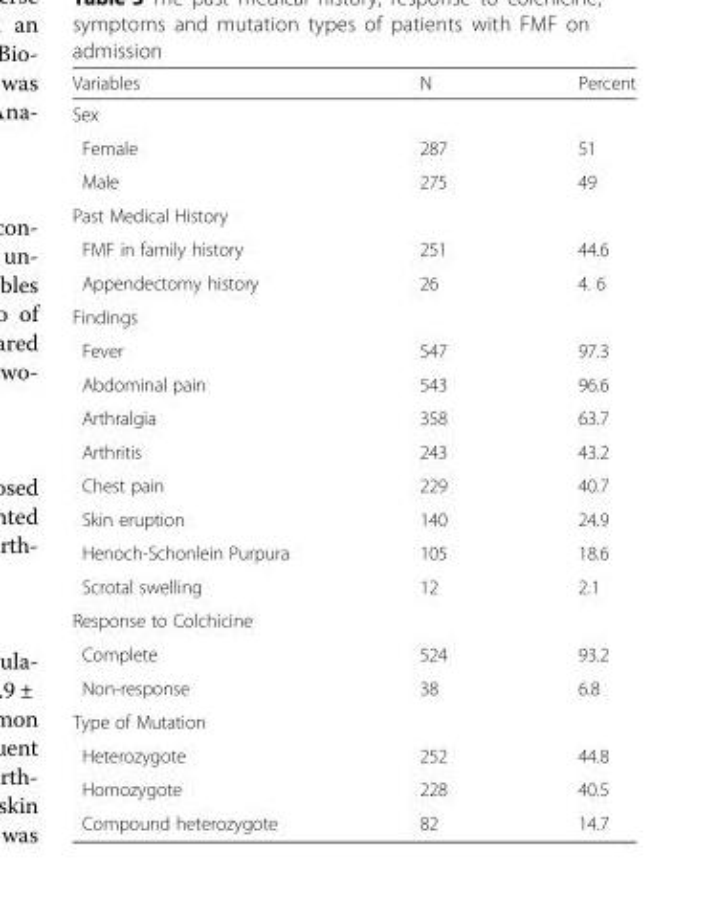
<table><thead><tr><td>Variables</td><td>N</td><td>Percent</td></tr></thead><tbody><tr><td colspan="3">Sex</td></tr><tr><td>Female</td><td>287</td><td>51</td></tr><tr><td>Male</td><td>275</td><td>49</td></tr><tr><td colspan="3">Past Medical History</td></tr><tr><td>FMF in family history</td><td>251</td><td>44.6</td></tr><tr><td>Appendectomy history</td><td>26</td><td>4. 6</td></tr><tr><td colspan="3">Findings</td></tr><tr><td>Fever</td><td>547</td><td>97.3</td></tr><tr><td>Abdominal pain</td><td>543</td><td>96.6</td></tr><tr><td>Arthralgia</td><td>358</td><td>63.7</td></tr><tr><td>Arthritis</td><td>243</td><td>43.2</td></tr><tr><td>Chest pain</td><td>229</td><td>40.7</td></tr><tr><td>Skin eruption</td><td>140</td><td>24.9</td></tr><tr><td>Henoch-Schonlein Purpura</td><td>105</td><td>18.6</td></tr><tr><td>Scrotal swelling</td><td>12</td><td>2.1</td></tr><tr><td colspan="3">Response to Colchicine</td></tr><tr><td>Complete</td><td>524</td><td>93.2</td></tr><tr><td>Non-response</td><td>38</td><td>6.8</td></tr><tr><td colspan="3">Type of Mutation</td></tr><tr><td>Heterozygote</td><td>252</td><td>44.8</td></tr><tr><td>Homozygote</td><td>228</td><td>40.5</td></tr><tr><td>Compound heterozygote</td><td>82</td><td>14.7</td></tr></tbody></table>